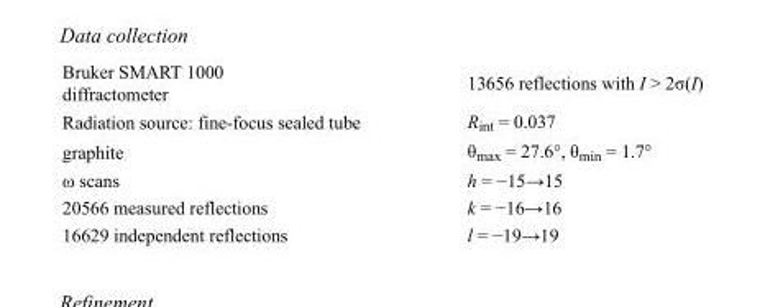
<table><tbody><tr><td>Bruker SMART 1000 diffractometer</td><td>13656 reflections with I &gt; 2σ(I)</td></tr><tr><td>Radiation source: fine-focus sealed tube</td><td>R<sub>int</sub> = 0.037</td></tr><tr><td>graphite</td><td>θ<sub>max</sub> = 27.6°, θ<sub>min</sub> = 1.7°</td></tr><tr><td>ω scans</td><td>h = −15→15</td></tr><tr><td>20566 measured reflections</td><td>k = −16→16</td></tr><tr><td>16629 independent reflections</td><td>l = −19→19</td></tr></tbody></table>